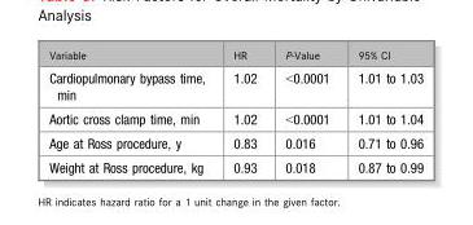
<table><thead><tr><td>Variable</td><td>HR</td><td>P-Value</td><td>95% CI</td></tr></thead><tbody><tr><td>Cardiopulmonary bypass time, min</td><td>1.02</td><td>&lt;0.0001</td><td>1.01 to 1.03</td></tr><tr><td>Aortic cross clamp time, min</td><td>1.02</td><td>&lt;0.0001</td><td>1.01 to 1.04</td></tr><tr><td>Age at Ross procedure, y</td><td>0.83</td><td>0.016</td><td>0.71 to 0.96</td></tr><tr><td>Weight at Ross procedure, kg</td><td>0.93</td><td>0.018</td><td>0.87 to 0.99</td></tr></tbody></table>